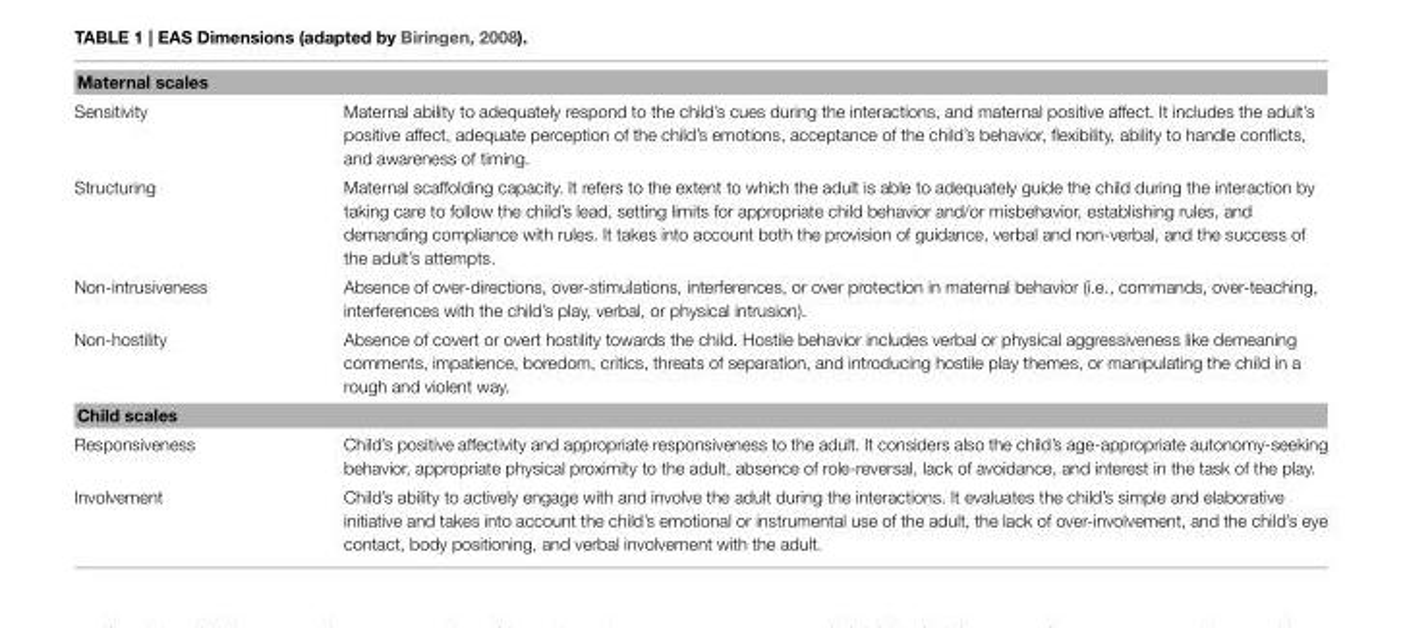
<table><tbody><tr><td colspan="2">Maternal scales</td></tr><tr><td>Sensitivity</td><td>Maternal ability to adequately respond to the child’s cues during the interactions, and maternal positive affect. It includes the adult’s positive affect, adequate perception of the child’s emotions, acceptance of the child’s behavior, flexibility, ability to handle conflicts, and awareness of timing.</td></tr><tr><td>Structuring</td><td>Maternal scaffolding capacity. It refers to the extent to which the adult is able to adequately guide the child during the interaction by taking care to follow the child’s lead, setting limits for appropriate child behavior and/or misbehavior, establishing rules, and demanding compliance with rules. It takes into account both the provision of guidance, verbal and non-verbal, and the success of the adult’s attempts.</td></tr><tr><td>Non-intrusiveness</td><td>Absence of over-directions, over-stimulations, interferences, or over protection in maternal behavior (i.e., commands, over-teaching, interferences with the child’s play, verbal, or physical intrusion).</td></tr><tr><td>Non-hostility</td><td>Absence of covert or overt hostility towards the child. Hostile behavior includes verbal or physical aggressiveness like demeaning comments, impatience, boredom, critics, threats of separation, and introducing hostile play themes, or manipulating the child in a rough and violent way.</td></tr><tr><td colspan="2">Child scales</td></tr><tr><td>Responsiveness</td><td>Child’s positive affectivity and appropriate responsiveness to the adult. It considers also the child’s age-appropriate autonomy-seeking behavior, appropriate physical proximity to the adult, absence of role-reversal, lack of avoidance, and interest in the task of the play.</td></tr><tr><td>Involvement</td><td>Child’s ability to actively engage with and involve the adult during the interactions. It evaluates the child’s simple and elaborative initiative and takes into account the child’s emotional or instrumental use of the adult, the lack of over-involvement, and the child’s eye contact, body positioning, and verbal involvement with the adult.</td></tr></tbody></table>